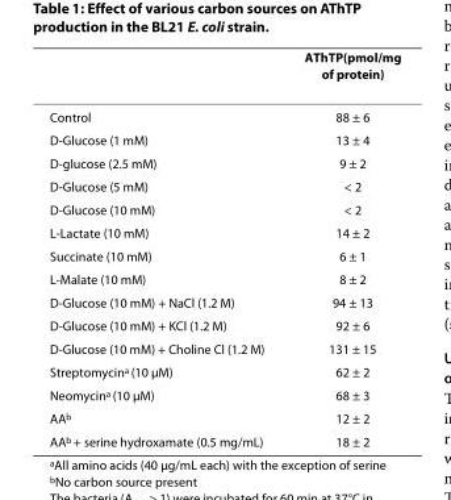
<table><thead><tr><td></td><td>AThTP(pmol/mg of protein)</td></tr></thead><tbody><tr><td>Control</td><td>88 ± 6</td></tr><tr><td>D-Glucose (1 mM)</td><td>13 ± 4</td></tr><tr><td>D-glucose (2.5 mM)</td><td>9 ± 2</td></tr><tr><td>D-Glucose (5 mM)</td><td>&lt; 2</td></tr><tr><td>D-Glucose (10 mM)</td><td>&lt; 2</td></tr><tr><td>L-Lactate (10 mM)</td><td>14 ± 2</td></tr><tr><td>Succinate (10 mM)</td><td>6 ± 1</td></tr><tr><td>L-Malate (10 mM)</td><td>8 ± 2</td></tr><tr><td>D-Glucose (10 mM) + NaCl (1.2 M)</td><td>94 ± 13</td></tr><tr><td>D-Glucose (10 mM) + KCl (1.2 M)</td><td>92 ± 6</td></tr><tr><td>D-Glucose (10 mM) + Choline Cl (1.2 M)</td><td>131 ± 15</td></tr><tr><td>Streptomycin<sup>a</sup> (10 μM)</td><td>62 ± 2</td></tr><tr><td>Neomycin<sup>a</sup> (10 μM)</td><td>68 ± 3</td></tr><tr><td>AA<sup>b</sup></td><td>12 ± 2</td></tr><tr><td>AA<sup>b</sup> + serine hydroxamate (0.5 mg/mL)</td><td>18 ± 2</td></tr></tbody></table>